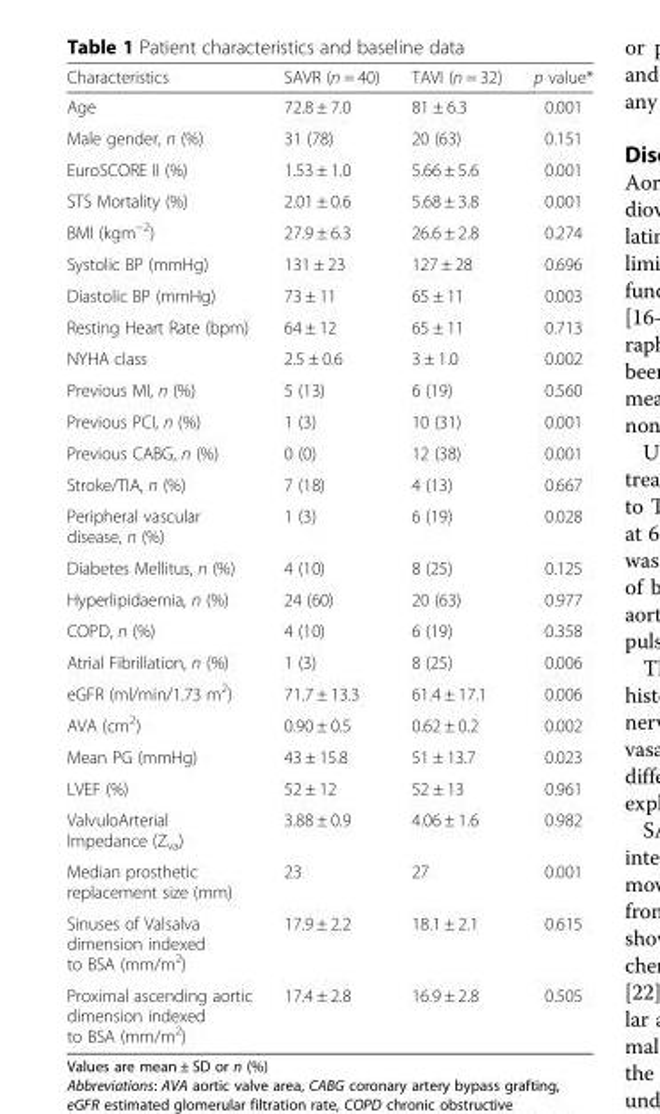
<table><thead><tr><td>Characteristics</td><td>SAVR (n = 40)</td><td>TAVI (n = 32)</td><td>p value*</td></tr></thead><tbody><tr><td>Age</td><td>72.8 ± 7.0</td><td>81 ± 6.3</td><td>0.001</td></tr><tr><td>Male gender, n (%)</td><td>31 (78)</td><td>20 (63)</td><td>0.151</td></tr><tr><td>EuroSCORE II (%)</td><td>1.53 ± 1.0</td><td>5.66 ± 5.6</td><td>0.001</td></tr><tr><td>STS Mortality (%)</td><td>2.01 ± 0.6</td><td>5.68 ± 3.8</td><td>0.001</td></tr><tr><td>BMI (kgm<sup>−2</sup>)</td><td>27.9 ± 6.3</td><td>26.6 ± 2.8</td><td>0.274</td></tr><tr><td>Systolic BP (mmHg)</td><td>131 ± 23</td><td>127 ± 28</td><td>0.696</td></tr><tr><td>Diastolic BP (mmHg)</td><td>73 ± 11</td><td>65 ± 11</td><td>0.003</td></tr><tr><td>Resting Heart Rate (bpm)</td><td>64 ± 12</td><td>65 ± 11</td><td>0.713</td></tr><tr><td>NYHA class</td><td>2.5 ± 0.6</td><td>3 ± 1.0</td><td>0.002</td></tr><tr><td>Previous MI, n (%)</td><td>5 (13)</td><td>6 (19)</td><td>0.560</td></tr><tr><td>Previous PCI, n (%)</td><td>1 (3)</td><td>10 (31)</td><td>0.001</td></tr><tr><td>Previous CABG, n (%)</td><td>0 (0)</td><td>12 (38)</td><td>0.001</td></tr><tr><td>Stroke/TIA, n (%)</td><td>7 (18)</td><td>4 (13)</td><td>0.667</td></tr><tr><td>Peripheral vascular disease, n (%)</td><td>1 (3)</td><td>6 (19)</td><td>0.028</td></tr><tr><td>Diabetes Mellitus, n (%)</td><td>4 (10)</td><td>8 (25)</td><td>0.125</td></tr><tr><td>Hyperlipidaemia, n (%)</td><td>24 (60)</td><td>20 (63)</td><td>0.977</td></tr><tr><td>COPD, n (%)</td><td>4 (10)</td><td>6 (19)</td><td>0.358</td></tr><tr><td>Atrial Fibrillation, n (%)</td><td>1 (3)</td><td>8 (25)</td><td>0.006</td></tr><tr><td>eGFR (ml/min/1.73 m<sup>2</sup>)</td><td>71.7 ± 13.3</td><td>61.4 ± 17.1</td><td>0.006</td></tr><tr><td>AVA (cm<sup>2</sup>)</td><td>0.90 ± 0.5</td><td>0.62 ± 0.2</td><td>0.002</td></tr><tr><td>Mean PG (mmHg)</td><td>43 ± 15.8</td><td>51 ± 13.7</td><td>0.023</td></tr><tr><td>LVEF (%)</td><td>52 ± 12</td><td>52 ± 13</td><td>0.961</td></tr><tr><td>ValvuloArterial Impedance (Z<sub>va</sub>)</td><td>3.88 ± 0.9</td><td>4.06 ± 1.6</td><td>0.982</td></tr><tr><td>Median prosthetic replacement size (mm)</td><td>23</td><td>27</td><td>0.001</td></tr><tr><td>Sinuses of Valsalva dimension indexed to BSA (mm/m<sup>2</sup>)</td><td>17.9 ± 2.2</td><td>18.1 ± 2.1</td><td>0.615</td></tr><tr><td>Proximal ascending aortic dimension indexed to BSA (mm/m<sup>2</sup>)</td><td>17.4 ± 2.8</td><td>16.9 ± 2.8</td><td>0.505</td></tr></tbody></table>